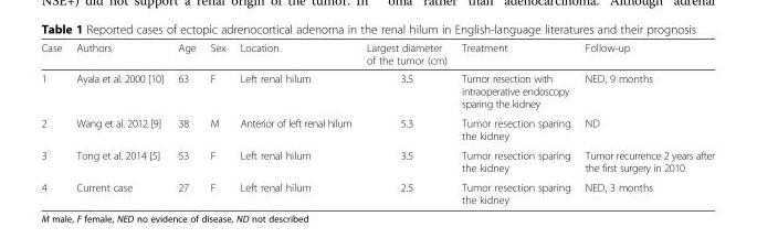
<table><thead><tr><td>Case</td><td>Authors</td><td>Age</td><td>Sex</td><td>Location</td><td>Largest diameter of the tumor (cm)</td><td>Treatment</td><td>Follow-up</td></tr></thead><tbody><tr><td>1</td><td>Ayala et al. 2000 [10]</td><td>63</td><td>F</td><td>Left renal hilum</td><td>3.5</td><td>Tumor resection with intraoperative endoscopy sparing the kidney</td><td>NED, 9 months</td></tr><tr><td>2</td><td>Wang et al. 2012 [9]</td><td>38</td><td>M</td><td>Anterior of left renal hilum</td><td>5.3</td><td>Tumor resection sparing the kidney</td><td>ND</td></tr><tr><td>3</td><td>Tong et al. 2014 [5]</td><td>53</td><td>F</td><td>Left renal hilum</td><td>3.5</td><td>Tumor resection sparing the kidney</td><td>Tumor recurrence 2 years after the first surgery in 2010</td></tr><tr><td>4</td><td>Current case</td><td>27</td><td>F</td><td>Left renal hilum</td><td>2.5</td><td>Tumor resection sparing the kidney</td><td>NED, 3 months</td></tr></tbody></table>